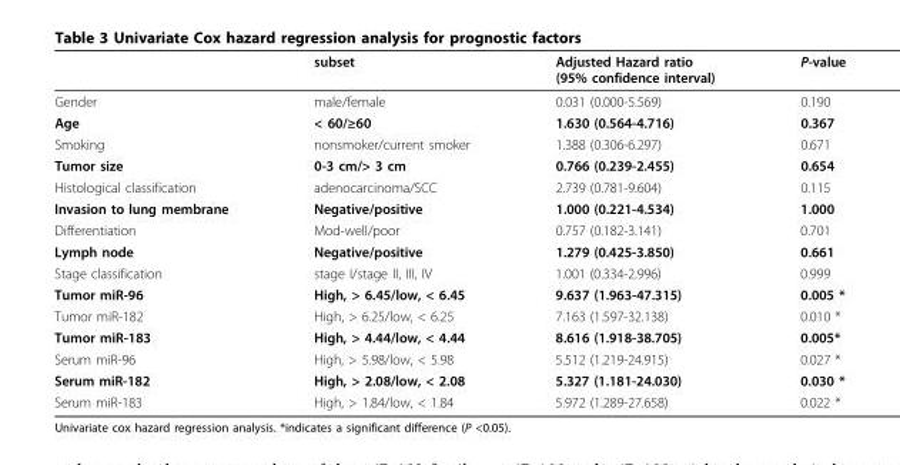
<table><thead><tr><td></td><td>subset</td><td>Adjusted Hazard ratio (95% confidence interval)</td><td>P-value</td></tr></thead><tbody><tr><td>Gender</td><td>male/female</td><td>0.031 (0.000-5.569)</td><td>0.190</td></tr><tr><td>Age</td><td>&lt; 60/≥60</td><td>1.630 (0.564-4.716)</td><td>0.367</td></tr><tr><td>Smoking</td><td>nonsmoker/current smoker</td><td>1.388 (0.306-6.297)</td><td>0.671</td></tr><tr><td>Tumor size</td><td>0-3 cm/&gt; 3 cm</td><td>0.766 (0.239-2.455)</td><td>0.654</td></tr><tr><td>Histological classification</td><td>adenocarcinoma/SCC</td><td>2.739 (0.781-9.604)</td><td>0.115</td></tr><tr><td>Invasion to lung membrane</td><td>Negative/positive</td><td>1.000 (0.221-4.534)</td><td>1.000</td></tr><tr><td>Differentiation</td><td>Mod-well/poor</td><td>0.757 (0.182-3.141)</td><td>0.701</td></tr><tr><td>Lymph node</td><td>Negative/positive</td><td>1.279 (0.425-3.850)</td><td>0.661</td></tr><tr><td>Stage classification</td><td>stage I/stage II, III, IV</td><td>1.001 (0.334-2.996)</td><td>0.999</td></tr><tr><td>Tumor miR-96</td><td>High, &gt; 6.45/low, &lt; 6.45</td><td>9.637 (1.963-47.315)</td><td>0.005 *</td></tr><tr><td>Tumor miR-182</td><td>High, &gt; 6.25/low, &lt; 6.25</td><td>7.163 (1.597-32.138)</td><td>0.010 *</td></tr><tr><td>Tumor miR-183</td><td>High, &gt; 4.44/low, &lt; 4.44</td><td>8.616 (1.918-38.705)</td><td>0.005*</td></tr><tr><td>Serum miR-96</td><td>High, &gt; 5.98/low, &lt; 5.98</td><td>5.512 (1.219-24.915)</td><td>0.027 *</td></tr><tr><td>Serum miR-182</td><td>High, &gt; 2.08/low, &lt; 2.08</td><td>5.327 (1.181-24.030)</td><td>0.030 *</td></tr><tr><td>Serum miR-183</td><td>High, &gt; 1.84/low, &lt; 1.84</td><td>5.972 (1.289-27.658)</td><td>0.022 *</td></tr></tbody></table>